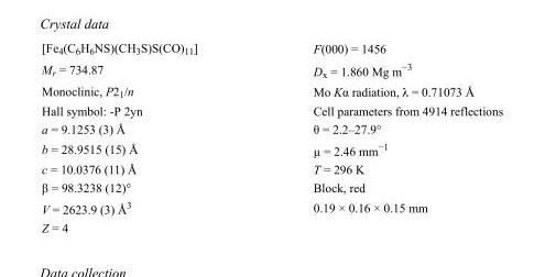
<table><tbody><tr><td>[Fe<sub>4</sub>(C<sub>6</sub>H<sub>6</sub>NS)(CH<sub>3</sub>S)S(CO)<sub>11</sub>]</td><td>F(000) = 1456</td></tr><tr><td>M<sub>r</sub> = 734.87</td><td>D<sub>x</sub> = 1.860 Mg m<sup>−3</sup></td></tr><tr><td>Monoclinic, P2<sub>1</sub>/n</td><td>Mo Kα radiation, λ = 0.71073 Å</td></tr><tr><td>Hall symbol: -P 2yn</td><td>Cell parameters from 4914 reflections</td></tr><tr><td>a = 9.1253 (3) Å</td><td>θ = 2.2–27.9°</td></tr><tr><td>b = 28.9515 (15) Å</td><td>µ = 2.46 mm<sup>−1</sup></td></tr><tr><td>c = 10.0376 (11) Å</td><td>T = 296 K</td></tr><tr><td>β = 98.3238 (12)°</td><td>Block, red</td></tr><tr><td>V = 2623.9 (3) Å<sup>3</sup></td><td>0.19 × 0.16 × 0.15 mm</td></tr><tr><td>Z = 4</td><td></td></tr></tbody></table>